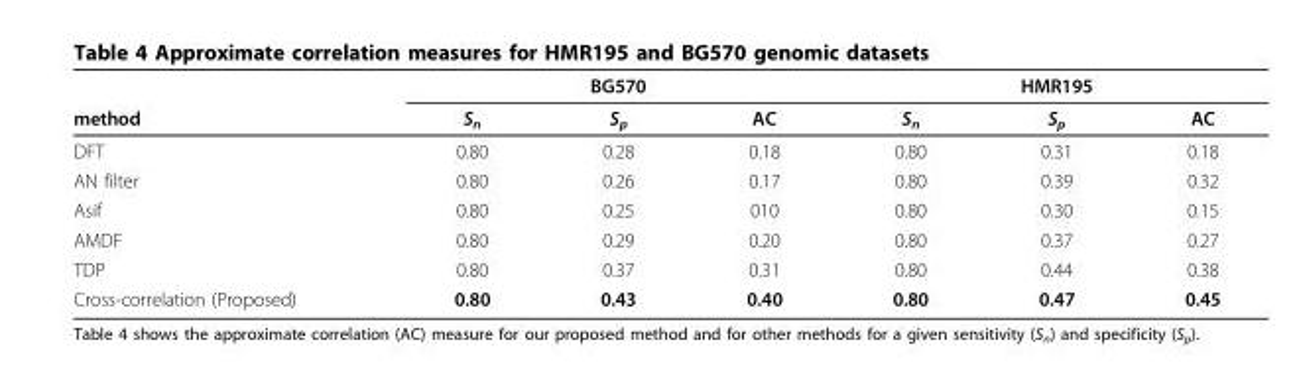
<table><thead><tr><td rowspan="2">method</td><td colspan="3">BG570</td><td colspan="3">HMR195</td></tr><tr><td>S<sub>n</sub></td><td>S<sub>p</sub></td><td>AC</td><td>S<sub>n</sub></td><td>S<sub>p</sub></td><td>AC</td></tr></thead><tbody><tr><td>DFT</td><td>0.80</td><td>0.28</td><td>0.18</td><td>0.80</td><td>0.31</td><td>0.18</td></tr><tr><td>AN filter</td><td>0.80</td><td>0.26</td><td>0.17</td><td>0.80</td><td>0.39</td><td>0.32</td></tr><tr><td>Asif</td><td>0.80</td><td>0.25</td><td>010</td><td>0.80</td><td>0.30</td><td>0.15</td></tr><tr><td>AMDF</td><td>0.80</td><td>0.29</td><td>0.20</td><td>0.80</td><td>0.37</td><td>0.27</td></tr><tr><td>TDP</td><td>0.80</td><td>0.37</td><td>0.31</td><td>0.80</td><td>0.44</td><td>0.38</td></tr><tr><td>Cross-correlation (Proposed)</td><td>0.80</td><td>0.43</td><td>0.40</td><td>0.80</td><td>0.47</td><td>0.45</td></tr></tbody></table>